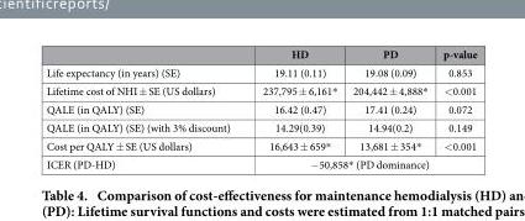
<table><thead><tr><td></td><td>HD</td><td>PD</td><td>p-value</td></tr></thead><tbody><tr><td>Life expectancy (in years) (SE)</td><td>19.11 (0.11)</td><td>19.08 (0.09)</td><td>0.853</td></tr><tr><td>Lifetime cost of NHI ± SE (US dollars)</td><td>237,795 ± 6,161*</td><td>204,442 ± 4,888*</td><td>&lt; 0.001</td></tr><tr><td>QALE (in QALY) (SE)</td><td>16.42 (0.47)</td><td>17.41 (0.24)</td><td>0.072</td></tr><tr><td>QALE (in QALY) (SE) (with 3% discount)</td><td>14.29(0.39)</td><td>14.94(0.2)</td><td>0.149</td></tr><tr><td>Cost per QALY ± SE (US dollars)</td><td>16,643 ± 659*</td><td>13,681 ± 354*</td><td>&lt; 0.001</td></tr><tr><td>ICER (PD-HD)</td><td colspan="3">− 50,858* (PD dominance)</td></tr></tbody></table>